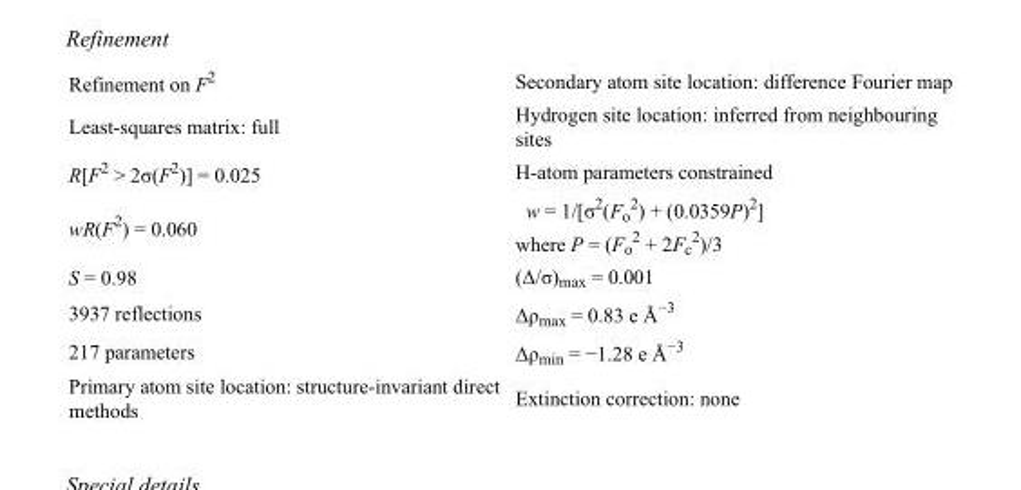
<table><tbody><tr><td>Refinement on F<sup>2</sup></td><td>Secondary atom site location: difference Fourier map</td></tr><tr><td>Least-squares matrix: full</td><td>Hydrogen site location: inferred from neighbouring sites</td></tr><tr><td>R[F<sup>2</sup> &gt; 2σ(F<sup>2</sup>)] = 0.025</td><td>H-atom parameters constrained</td></tr><tr><td>wR(F<sup>2</sup>) = 0.060</td><td>w = 1/[σ<sup>2</sup>(F<sub>o</sub> <sup>2</sup>) + (0.0359P)<sup>2</sup>] where P = (F<sub>o</sub> <sup>2</sup> + 2F<sub>c</sub> <sup>2</sup>)/3</td></tr><tr><td>S = 0.98</td><td>(Δ/σ)<sub>max</sub> = 0.001</td></tr><tr><td>3937 reflections</td><td>Δρ<sub>max</sub> = 0.83 e Å<sup>−3</sup></td></tr><tr><td>217 parameters</td><td>Δρ<sub>min</sub> = −1.28 e Å<sup>−3</sup></td></tr><tr><td>Primary atom site location: structure-invariant direct methods</td><td>Extinction correction: none</td></tr></tbody></table>